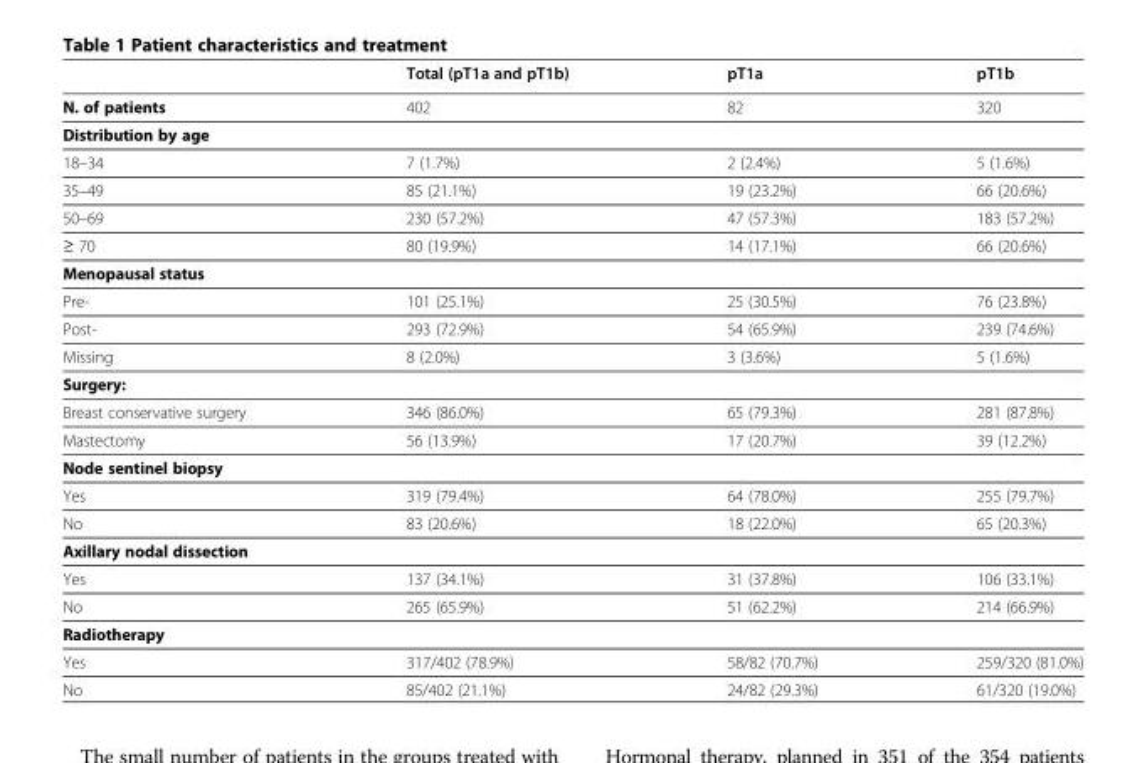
<table><thead><tr><td></td><td>Total (pT1a and pT1b)</td><td>pT1a</td><td>pT1b</td></tr></thead><tbody><tr><td>N. of patients</td><td>402</td><td>82</td><td>320</td></tr><tr><td colspan="4">Distribution by age</td></tr><tr><td>18–34</td><td>7 (1.7%)</td><td>2 (2.4%)</td><td>5 (1.6%)</td></tr><tr><td>35–49</td><td>85 (21.1%)</td><td>19 (23.2%)</td><td>66 (20.6%)</td></tr><tr><td>50–69</td><td>230 (57.2%)</td><td>47 (57.3%)</td><td>183 (57.2%)</td></tr><tr><td>≥ 70</td><td>80 (19.9%)</td><td>14 (17.1%)</td><td>66 (20.6%)</td></tr><tr><td colspan="4">Menopausal status</td></tr><tr><td>Pre-</td><td>101 (25.1%)</td><td>25 (30.5%)</td><td>76 (23.8%)</td></tr><tr><td>Post-</td><td>293 (72.9%)</td><td>54 (65.9%)</td><td>239 (74.6%)</td></tr><tr><td>Missing</td><td>8 (2.0%)</td><td>3 (3.6%)</td><td>5 (1.6%)</td></tr><tr><td colspan="4">Surgery:</td></tr><tr><td>Breast conservative surgery</td><td>346 (86.0%)</td><td>65 (79.3%)</td><td>281 (87.8%)</td></tr><tr><td>Mastectomy</td><td>56 (13.9%)</td><td>17 (20.7%)</td><td>39 (12.2%)</td></tr><tr><td colspan="4">Node sentinel biopsy</td></tr><tr><td>Yes</td><td>319 (79.4%)</td><td>64 (78.0%)</td><td>255 (79.7%)</td></tr><tr><td>No</td><td>83 (20.6%)</td><td>18 (22.0%)</td><td>65 (20.3%)</td></tr><tr><td colspan="4">Axillary nodal dissection</td></tr><tr><td>Yes</td><td>137 (34.1%)</td><td>31 (37.8%)</td><td>106 (33.1%)</td></tr><tr><td>No</td><td>265 (65.9%)</td><td>51 (62.2%)</td><td>214 (66.9%)</td></tr><tr><td colspan="4">Radiotherapy</td></tr><tr><td>Yes</td><td>317/402 (78.9%)</td><td>58/82 (70.7%)</td><td>259/320 (81.0%)</td></tr><tr><td>No</td><td>85/402 (21.1%)</td><td>24/82 (29.3%)</td><td>61/320 (19.0%)</td></tr></tbody></table>